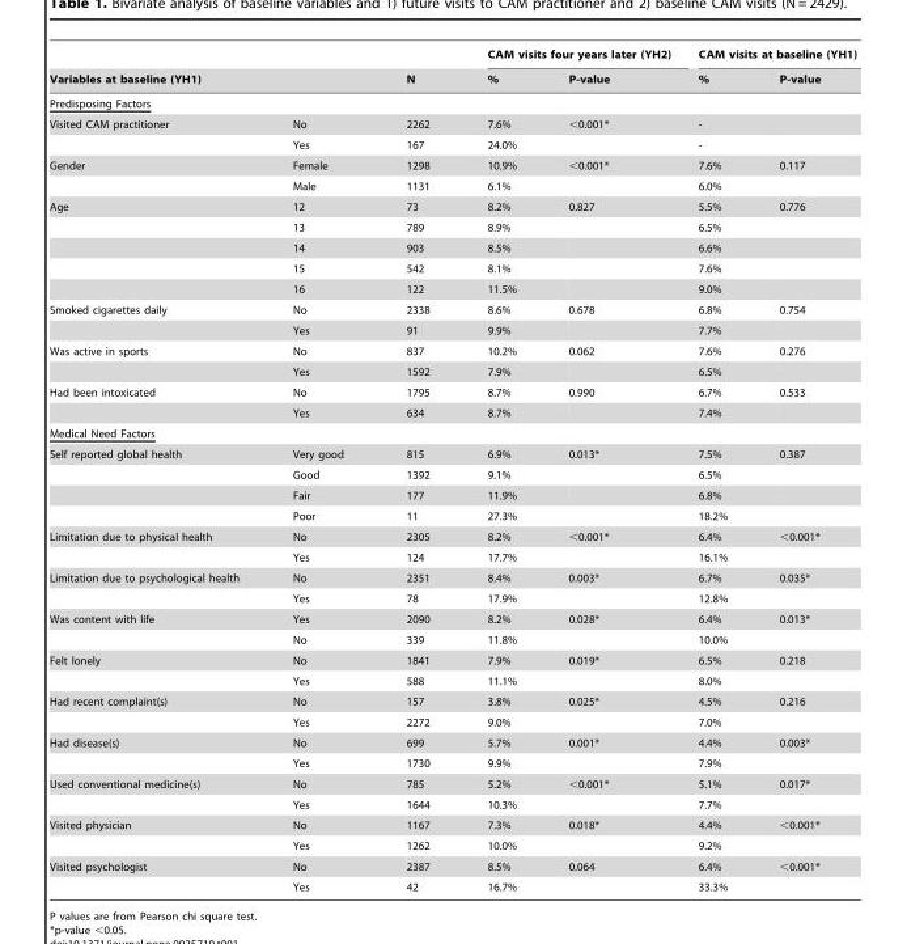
<table><thead><tr><td></td><td></td><td rowspan="2">N</td><td colspan="2">CAM visits four years later (YH2)</td><td colspan="2">CAM visits at baseline (YH1)</td></tr><tr><td colspan="2">Variables at baseline (YH1)</td><td>%</td><td>P-value</td><td>%</td><td>P-value</td></tr></thead><tbody><tr><td colspan="7">Predisposing Factors</td></tr><tr><td rowspan="2">Visited CAM practitioner</td><td>No</td><td>2262</td><td>7.6%</td><td>&lt;0.001*</td><td>-</td><td></td></tr><tr><td>Yes</td><td>167</td><td>24.0%</td><td></td><td>-</td><td></td></tr><tr><td rowspan="2">Gender</td><td>Female</td><td>1298</td><td>10.9%</td><td>&lt;0.001*</td><td>7.6%</td><td>0.117</td></tr><tr><td>Male</td><td>1131</td><td>6.1%</td><td></td><td>6.0%</td><td></td></tr><tr><td rowspan="5">Age</td><td>12</td><td>73</td><td>8.2%</td><td>0.827</td><td>5.5%</td><td>0.776</td></tr><tr><td>13</td><td>789</td><td>8.9%</td><td></td><td>6.5%</td><td></td></tr><tr><td>14</td><td>903</td><td>8.5%</td><td></td><td>6.6%</td><td></td></tr><tr><td>15</td><td>542</td><td>8.1%</td><td></td><td>7.6%</td><td></td></tr><tr><td>16</td><td>122</td><td>11.5%</td><td></td><td>9.0%</td><td></td></tr><tr><td rowspan="2">Smoked cigarettes daily</td><td>No</td><td>2338</td><td>8.6%</td><td>0.678</td><td>6.8%</td><td>0.754</td></tr><tr><td>Yes</td><td>91</td><td>9.9%</td><td></td><td>7.7%</td><td></td></tr><tr><td rowspan="2">Was active in sports</td><td>No</td><td>837</td><td>10.2%</td><td>0.062</td><td>7.6%</td><td>0.276</td></tr><tr><td>Yes</td><td>1592</td><td>7.9%</td><td></td><td>6.5%</td><td></td></tr><tr><td rowspan="2">Had been intoxicated</td><td>No</td><td>1795</td><td>8.7%</td><td>0.990</td><td>6.7%</td><td>0.533</td></tr><tr><td>Yes</td><td>634</td><td>8.7%</td><td></td><td>7.4%</td><td></td></tr><tr><td colspan="7">Medical Need Factors</td></tr><tr><td rowspan="4">Self reported global health</td><td>Very good</td><td>815</td><td>6.9%</td><td>0.013*</td><td>7.5%</td><td>0.387</td></tr><tr><td>Good</td><td>1392</td><td>9.1%</td><td></td><td>6.5%</td><td></td></tr><tr><td>Fair</td><td>177</td><td>11.9%</td><td></td><td>6.8%</td><td></td></tr><tr><td>Poor</td><td>11</td><td>27.3%</td><td></td><td>18.2%</td><td></td></tr><tr><td rowspan="2">Limitation due to physical health</td><td>No</td><td>2305</td><td>8.2%</td><td>&lt;0.001*</td><td>6.4%</td><td>&lt;0.001*</td></tr><tr><td>Yes</td><td>124</td><td>17.7%</td><td></td><td>16.1%</td><td></td></tr><tr><td rowspan="2">Limitation due to psychological health</td><td>No</td><td>2351</td><td>8.4%</td><td>0.003*</td><td>6.7%</td><td>0.035*</td></tr><tr><td>Yes</td><td>78</td><td>17.9%</td><td></td><td>12.8%</td><td></td></tr><tr><td rowspan="2">Was content with life</td><td>Yes</td><td>2090</td><td>8.2%</td><td>0.028*</td><td>6.4%</td><td>0.013*</td></tr><tr><td>No</td><td>339</td><td>11.8%</td><td></td><td>10.0%</td><td></td></tr><tr><td rowspan="2">Felt lonely</td><td>No</td><td>1841</td><td>7.9%</td><td>0.019*</td><td>6.5%</td><td>0.218</td></tr><tr><td>Yes</td><td>588</td><td>11.1%</td><td></td><td>8.0%</td><td></td></tr><tr><td rowspan="2">Had recent complaint(s)</td><td>No</td><td>157</td><td>3.8%</td><td>0.025*</td><td>4.5%</td><td>0.216</td></tr><tr><td>Yes</td><td>2272</td><td>9.0%</td><td></td><td>7.0%</td><td></td></tr><tr><td rowspan="2">Had disease(s)</td><td>No</td><td>699</td><td>5.7%</td><td>0.001*</td><td>4.4%</td><td>0.003*</td></tr><tr><td>Yes</td><td>1730</td><td>9.9%</td><td></td><td>7.9%</td><td></td></tr><tr><td rowspan="2">Used conventional medicine(s)</td><td>No</td><td>785</td><td>5.2%</td><td>&lt;0.001*</td><td>5.1%</td><td>0.017*</td></tr><tr><td>Yes</td><td>1644</td><td>10.3%</td><td></td><td>7.7%</td><td></td></tr><tr><td rowspan="2">Visited physician</td><td>No</td><td>1167</td><td>7.3%</td><td>0.018*</td><td>4.4%</td><td>&lt;0.001*</td></tr><tr><td>Yes</td><td>1262</td><td>10.0%</td><td></td><td>9.2%</td><td></td></tr><tr><td rowspan="2">Visited psychologist</td><td>No</td><td>2387</td><td>8.5%</td><td>0.064</td><td>6.4%</td><td>&lt;0.001*</td></tr><tr><td>Yes</td><td>42</td><td>16.7%</td><td></td><td>33.3%</td><td></td></tr></tbody></table>